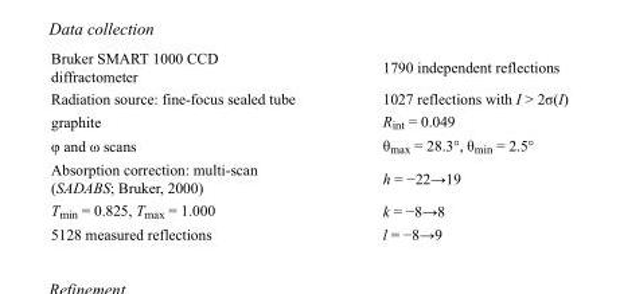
<table><tbody><tr><td>Bruker SMART 1000 CCD diffractometer</td><td>1790 independent reflections</td></tr><tr><td>Radiation source: fine-focus sealed tube</td><td>1027 reflections with I &gt; 2σ(I)</td></tr><tr><td>graphite</td><td>R<sub>int</sub> = 0.049</td></tr><tr><td>φ and ω scans</td><td>θ<sub>max</sub> = 28.3°, θ<sub>min</sub> = 2.5°</td></tr><tr><td>Absorption correction: multi-scan (SADABS; Bruker, 2000)</td><td>h = −22→19</td></tr><tr><td>T<sub>min</sub> = 0.825, T<sub>max</sub> = 1.000</td><td>k = −8→8</td></tr><tr><td>5128 measured reflections</td><td>l = −8→9</td></tr></tbody></table>